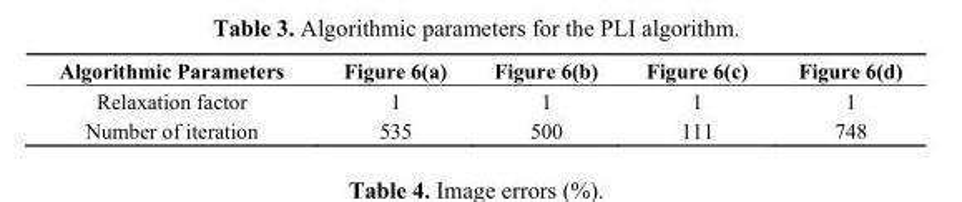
<table><thead><tr><td>Algorithmic Parameters</td><td>Figure 6(a)</td><td>Figure 6(b)</td><td>Figure 6(c)</td><td>Figure 6(d)</td></tr></thead><tbody><tr><td>Relaxation factor</td><td>1</td><td>1</td><td>1</td><td>1</td></tr><tr><td>Number of iteration</td><td>535</td><td>500</td><td>111</td><td>748</td></tr></tbody></table>